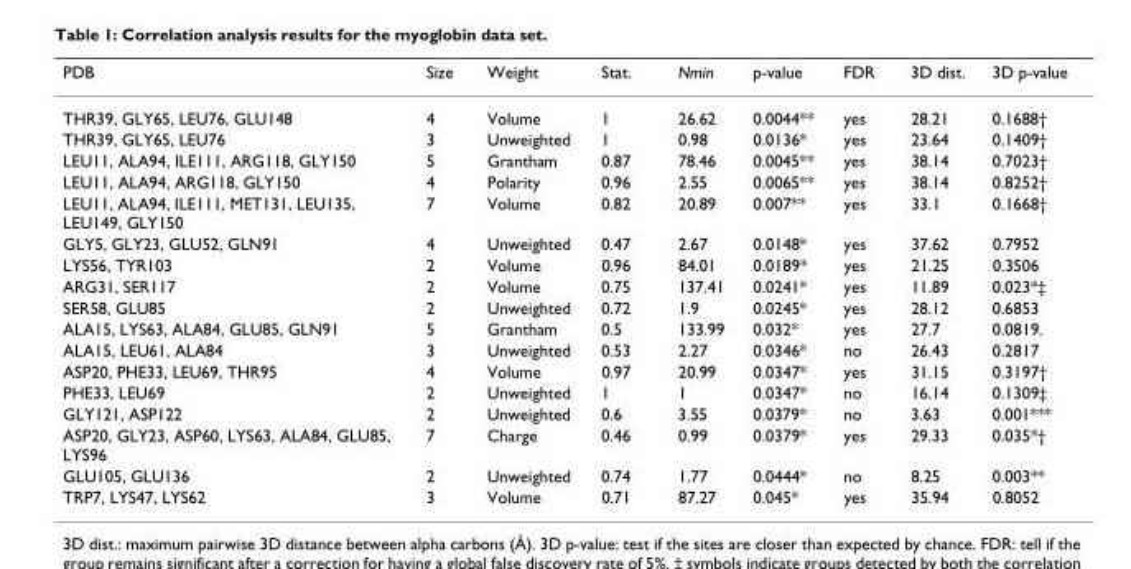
<table><thead><tr><td>PDB</td><td>Size</td><td>Weight</td><td>Stat.</td><td>Nmin</td><td>p-value</td><td>FDR</td><td>3D dist.</td><td>3D p-value</td></tr></thead><tbody><tr><td>THR39, GLY65, LEU76, GLU148</td><td>4</td><td>Volume</td><td>1</td><td>26.62</td><td>0.0044**</td><td>yes</td><td>28.21</td><td>0.1688†</td></tr><tr><td>THR39, GLY65, LEU76</td><td>3</td><td>Unweighted</td><td>1</td><td>0.98</td><td>0.0136*</td><td>yes</td><td>23.64</td><td>0.1409†</td></tr><tr><td>LEU11, ALA94, ILE111, ARG118, GLY150</td><td>5</td><td>Grantham</td><td>0.87</td><td>78.46</td><td>0.0045**</td><td>yes</td><td>38.14</td><td>0.7023†</td></tr><tr><td>LEU11, ALA94, ARG118, GLY150</td><td>4</td><td>Polarity</td><td>0.96</td><td>2.55</td><td>0.0065**</td><td>yes</td><td>38.14</td><td>0.8252†</td></tr><tr><td>LEU11, ALA94, ILE111, MET131, LEU135, LEU149, GLY150</td><td>7</td><td>Volume</td><td>0.82</td><td>20.89</td><td>0.007**</td><td>yes</td><td>33.1</td><td>0.1668†</td></tr><tr><td>GLY5, GLY23, GLU52, GLN91</td><td>4</td><td>Unweighted</td><td>0.47</td><td>2.67</td><td>0.0148*</td><td>yes</td><td>37.62</td><td>0.7952</td></tr><tr><td>LYS56, TYR103</td><td>2</td><td>Volume</td><td>0.96</td><td>84.01</td><td>0.0189*</td><td>yes</td><td>21.25</td><td>0.3506</td></tr><tr><td>ARG31, SER117</td><td>2</td><td>Volume</td><td>0.75</td><td>137.41</td><td>0.0241*</td><td>yes</td><td>11.89</td><td>0.023*‡</td></tr><tr><td>SER58, GLU85</td><td>2</td><td>Unweighted</td><td>0.72</td><td>1.9</td><td>0.0245*</td><td>yes</td><td>28.12</td><td>0.6853</td></tr><tr><td>ALA15, LYS63, ALA84, GLU85, GLN91</td><td>5</td><td>Grantham</td><td>0.5</td><td>133.99</td><td>0.032*</td><td>yes</td><td>27.7</td><td>0.0819.</td></tr><tr><td>ALA15, LEU61, ALA84</td><td>3</td><td>Unweighted</td><td>0.53</td><td>2.27</td><td>0.0346*</td><td>no</td><td>26.43</td><td>0.2817</td></tr><tr><td>ASP20, PHE33, LEU69, THR95</td><td>4</td><td>Volume</td><td>0.97</td><td>20.99</td><td>0.0347*</td><td>yes</td><td>31.15</td><td>0.3197†</td></tr><tr><td>PHE33, LEU69</td><td>2</td><td>Unweighted</td><td>1</td><td>1</td><td>0.0347*</td><td>no</td><td>16.14</td><td>0.1309‡</td></tr><tr><td>GLY121, ASP122</td><td>2</td><td>Unweighted</td><td>0.6</td><td>3.55</td><td>0.0379*</td><td>no</td><td>3.63</td><td>0.001***</td></tr><tr><td>ASP20, GLY23, ASP60, LYS63, ALA84, GLU85, LYS96</td><td>7</td><td>Charge</td><td>0.46</td><td>0.99</td><td>0.0379*</td><td>yes</td><td>29.33</td><td>0.035*†</td></tr><tr><td>GLU105, GLU136</td><td>2</td><td>Unweighted</td><td>0.74</td><td>1.77</td><td>0.0444*</td><td>no</td><td>8.25</td><td>0.003**</td></tr><tr><td>TRP7, LYS47, LYS62</td><td>3</td><td>Volume</td><td>0.71</td><td>87.27</td><td>0.045*</td><td>yes</td><td>35.94</td><td>0.8052</td></tr></tbody></table>